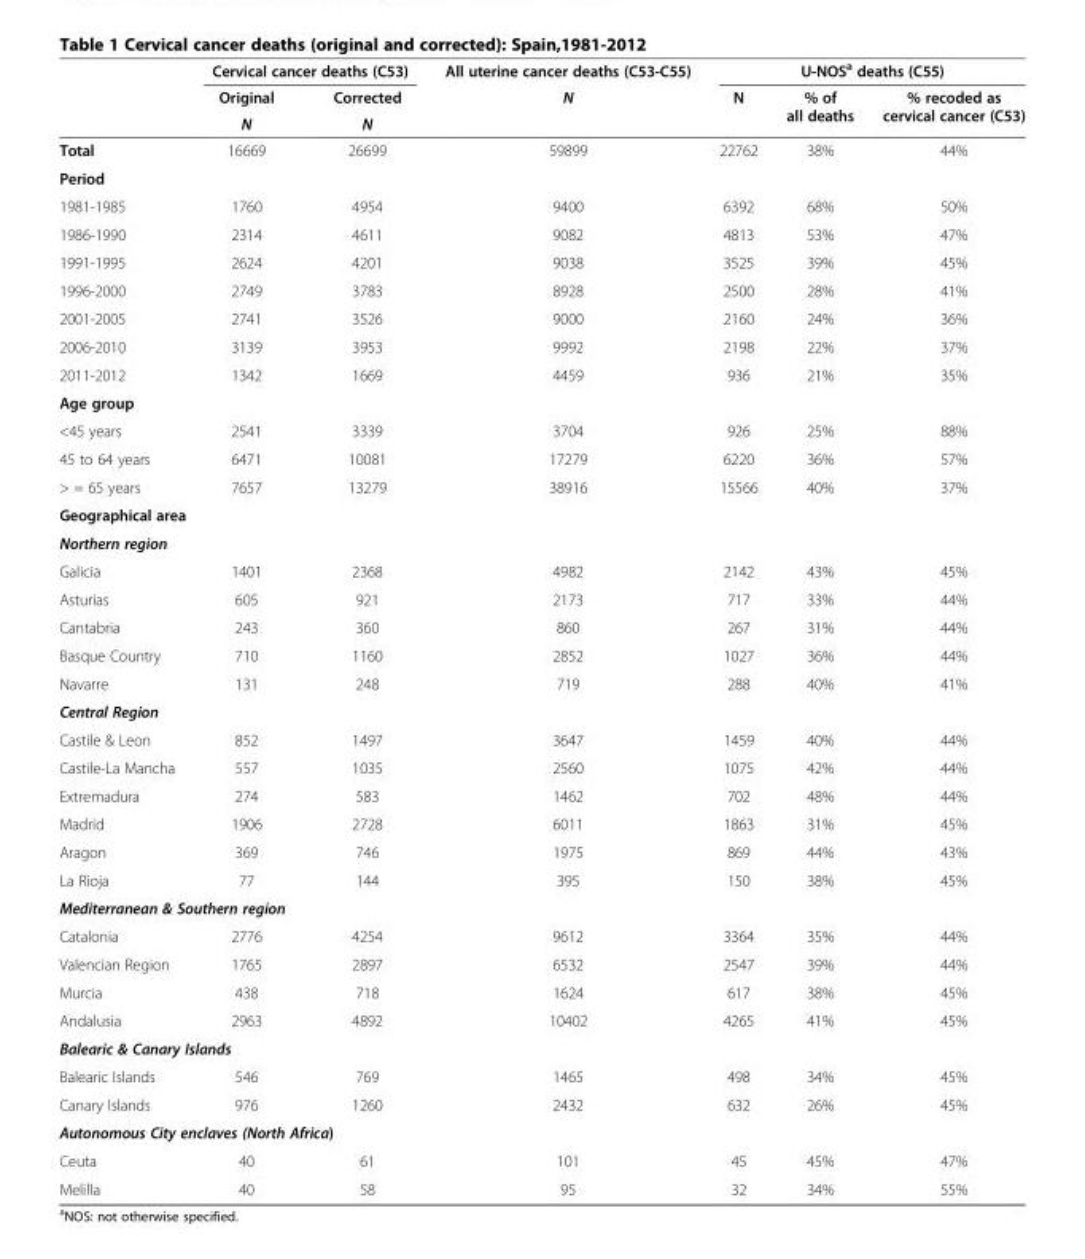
<table><thead><tr><td rowspan="3"></td><td colspan="2">Cervical cancer deaths (C53)</td><td rowspan="3">All uterine cancer deaths (C53-C55) N</td><td colspan="3">U-NOS<sup>a</sup> deaths (C55)</td></tr><tr><td rowspan="2">Original N</td><td rowspan="2">Corrected N</td><td rowspan="2">N</td><td rowspan="2">% of all deaths</td><td rowspan="2">% recoded as cervical cancer (C53)</td></tr><tr></tr></thead><tbody><tr><td>Total</td><td>16669</td><td>26699</td><td>59899</td><td>22762</td><td>38%</td><td>44%</td></tr><tr><td colspan="7">Period</td></tr><tr><td>1981-1985</td><td>1760</td><td>4954</td><td>9400</td><td>6392</td><td>68%</td><td>50%</td></tr><tr><td>1986-1990</td><td>2314</td><td>4611</td><td>9082</td><td>4813</td><td>53%</td><td>47%</td></tr><tr><td>1991-1995</td><td>2624</td><td>4201</td><td>9038</td><td>3525</td><td>39%</td><td>45%</td></tr><tr><td>1996-2000</td><td>2749</td><td>3783</td><td>8928</td><td>2500</td><td>28%</td><td>41%</td></tr><tr><td>2001-2005</td><td>2741</td><td>3526</td><td>9000</td><td>2160</td><td>24%</td><td>36%</td></tr><tr><td>2006-2010</td><td>3139</td><td>3953</td><td>9992</td><td>2198</td><td>22%</td><td>37%</td></tr><tr><td>2011-2012</td><td>1342</td><td>1669</td><td>4459</td><td>936</td><td>21%</td><td>35%</td></tr><tr><td colspan="7">Age group</td></tr><tr><td>&lt;45 years</td><td>2541</td><td>3339</td><td>3704</td><td>926</td><td>25%</td><td>88%</td></tr><tr><td>45 to 64 years</td><td>6471</td><td>10081</td><td>17279</td><td>6220</td><td>36%</td><td>57%</td></tr><tr><td>&gt; = 65 years</td><td>7657</td><td>13279</td><td>38916</td><td>15566</td><td>40%</td><td>37%</td></tr><tr><td colspan="7">Geographical area</td></tr><tr><td colspan="7">Northern region</td></tr><tr><td>Galicia</td><td>1401</td><td>2368</td><td>4982</td><td>2142</td><td>43%</td><td>45%</td></tr><tr><td>Asturias</td><td>605</td><td>921</td><td>2173</td><td>717</td><td>33%</td><td>44%</td></tr><tr><td>Cantabria</td><td>243</td><td>360</td><td>860</td><td>267</td><td>31%</td><td>44%</td></tr><tr><td>Basque Country</td><td>710</td><td>1160</td><td>2852</td><td>1027</td><td>36%</td><td>44%</td></tr><tr><td>Navarre</td><td>131</td><td>248</td><td>719</td><td>288</td><td>40%</td><td>41%</td></tr><tr><td colspan="7">Central Region</td></tr><tr><td>Castile &amp; Leon</td><td>852</td><td>1497</td><td>3647</td><td>1459</td><td>40%</td><td>44%</td></tr><tr><td>Castile-La Mancha</td><td>557</td><td>1035</td><td>2560</td><td>1075</td><td>42%</td><td>44%</td></tr><tr><td>Extremadura</td><td>274</td><td>583</td><td>1462</td><td>702</td><td>48%</td><td>44%</td></tr><tr><td>Madrid</td><td>1906</td><td>2728</td><td>6011</td><td>1863</td><td>31%</td><td>45%</td></tr><tr><td>Aragon</td><td>369</td><td>746</td><td>1975</td><td>869</td><td>44%</td><td>43%</td></tr><tr><td>La Rioja</td><td>77</td><td>144</td><td>395</td><td>150</td><td>38%</td><td>45%</td></tr><tr><td colspan="7">Mediterranean &amp; Southern region</td></tr><tr><td>Catalonia</td><td>2776</td><td>4254</td><td>9612</td><td>3364</td><td>35%</td><td>44%</td></tr><tr><td>Valencian Region</td><td>1765</td><td>2897</td><td>6532</td><td>2547</td><td>39%</td><td>44%</td></tr><tr><td>Murcia</td><td>438</td><td>718</td><td>1624</td><td>617</td><td>38%</td><td>45%</td></tr><tr><td>Andalusia</td><td>2963</td><td>4892</td><td>10402</td><td>4265</td><td>41%</td><td>45%</td></tr><tr><td colspan="7">Balearic &amp; Canary Islands</td></tr><tr><td>Balearic Islands</td><td>546</td><td>769</td><td>1465</td><td>498</td><td>34%</td><td>45%</td></tr><tr><td>Canary Islands</td><td>976</td><td>1260</td><td>2432</td><td>632</td><td>26%</td><td>45%</td></tr><tr><td colspan="7">Autonomous City enclaves (North Africa)</td></tr><tr><td>Ceuta</td><td>40</td><td>61</td><td>101</td><td>45</td><td>45%</td><td>47%</td></tr><tr><td>Melilla</td><td>40</td><td>58</td><td>95</td><td>32</td><td>34%</td><td>55%</td></tr></tbody></table>